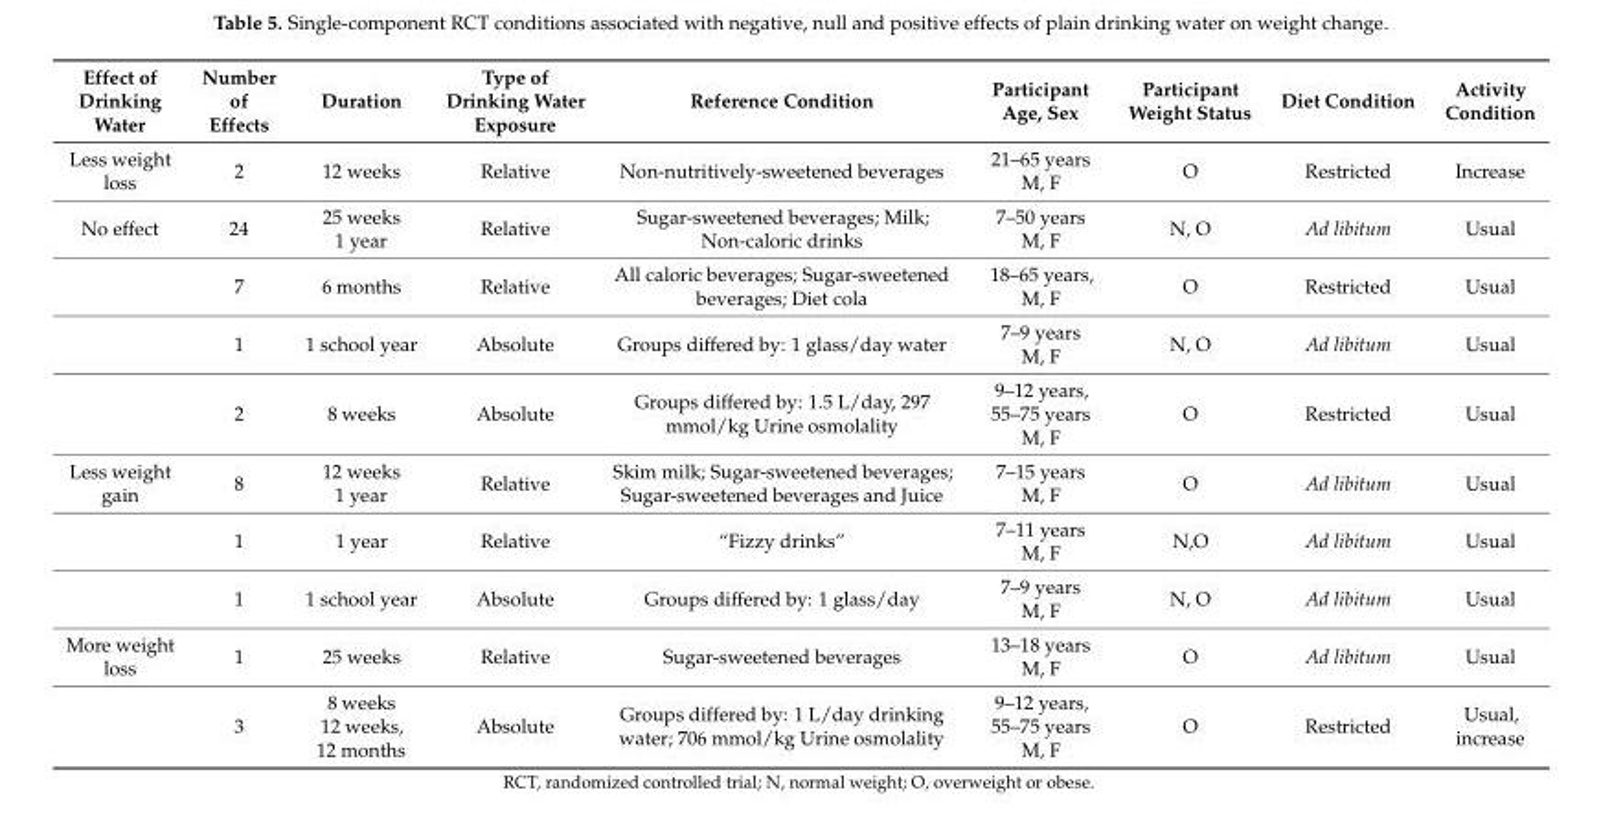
<table><thead><tr><td>Effect of Drinking Water</td><td>Number of Effects</td><td>Duration</td><td>Type of Drinking Water Exposure</td><td>Reference Condition</td><td>Participant Age, Sex</td><td>Participant Weight Status</td><td>Diet Condition</td><td>Activity Condition</td></tr></thead><tbody><tr><td>Less weight loss</td><td>2</td><td>12 weeks</td><td>Relative</td><td>Non-nutritively-sweetened beverages</td><td>21–65 years M, F</td><td>O</td><td>Restricted</td><td>Increase</td></tr><tr><td rowspan="4">No effect</td><td>24</td><td>25 weeks 1 year</td><td>Relative</td><td>Sugar-sweetened beverages; Milk; Non-caloric drinks</td><td>7–50 years M, F</td><td>N, O</td><td>Ad libitum</td><td>Usual</td></tr><tr><td>7</td><td>6 months</td><td>Relative</td><td>All caloric beverages; Sugar-sweetened beverages; Diet cola</td><td>18–65 years, M, F</td><td>O</td><td>Restricted</td><td>Usual</td></tr><tr><td>1</td><td>1 school year</td><td>Absolute</td><td>Groups differed by: 1 glass/day water</td><td>7–9 years M, F</td><td>N, O</td><td>Ad libitum</td><td>Usual</td></tr><tr><td>2</td><td>8 weeks</td><td>Absolute</td><td>Groups differed by: 1.5 L/day, 297 mmol/kg Urine osmolality</td><td>9–12 years, 55–75 years M, F</td><td>O</td><td>Restricted</td><td>Usual</td></tr><tr><td rowspan="3">Less weight gain</td><td>8</td><td>12 weeks 1 year</td><td>Relative</td><td>Skim milk; Sugar-sweetened beverages; Sugar-sweetened beverages and Juice</td><td>7–15 years M, F</td><td>O</td><td>Ad libitum</td><td>Usual</td></tr><tr><td>1</td><td>1 year</td><td>Relative</td><td>“Fizzy drinks”</td><td>7–11 years M, F</td><td>N,O</td><td>Ad libitum</td><td>Usual</td></tr><tr><td>1</td><td>1 school year</td><td>Absolute</td><td>Groups differed by: 1 glass/day</td><td>7–9 years M, F</td><td>N, O</td><td>Ad libitum</td><td>Usual</td></tr><tr><td rowspan="2">More weight loss</td><td>1</td><td>25 weeks</td><td>Relative</td><td>Sugar-sweetened beverages</td><td>13–18 years M, F</td><td>O</td><td>Ad libitum</td><td>Usual</td></tr><tr><td>3</td><td>8 weeks 12 weeks, 12 months</td><td>Absolute</td><td>Groups differed by: 1 L/day drinking water; 706 mmol/kg Urine osmolality</td><td>9–12 years, 55–75 years M, F</td><td>O</td><td>Restricted</td><td>Usual, increase</td></tr></tbody></table>